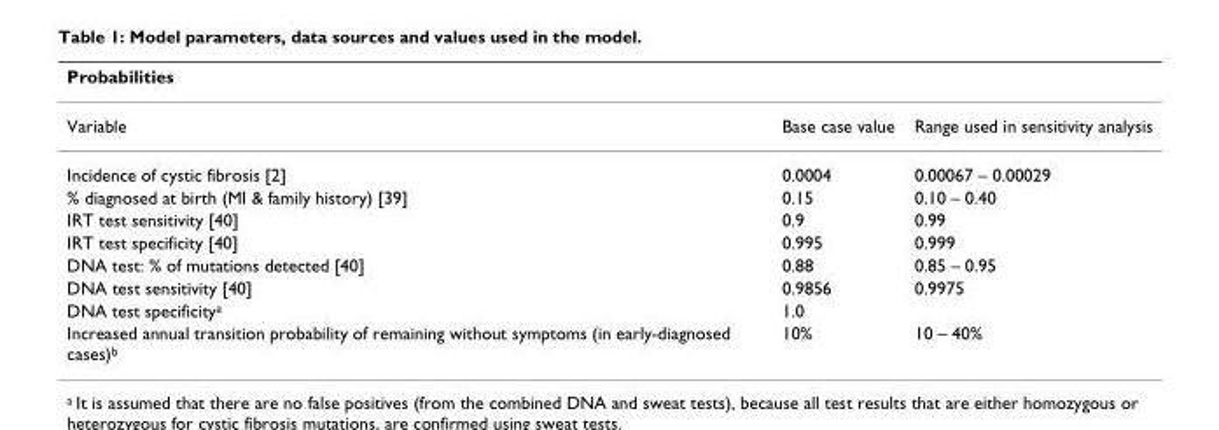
<table><thead><tr><td>Probabilities</td><td></td><td></td></tr></thead><tbody><tr><td>Variable</td><td>Base case value</td><td>Range used in sensitivity analysis</td></tr><tr><td>Incidence of cystic fibrosis [2]</td><td>0.0004</td><td>0.00067 – 0.00029</td></tr><tr><td>% diagnosed at birth (MI &amp; family history) [39]</td><td>0.15</td><td>0.10 – 0.40</td></tr><tr><td>IRT test sensitivity [40]</td><td>0.9</td><td>0.99</td></tr><tr><td>IRT test specificity [40]</td><td>0.995</td><td>0.999</td></tr><tr><td>DNA test: % of mutations detected [40]</td><td>0.88</td><td>0.85 – 0.95</td></tr><tr><td>DNA test sensitivity [40]</td><td>0.9856</td><td>0.9975</td></tr><tr><td>DNA test specificity<sup>a</sup></td><td>1.0</td><td></td></tr><tr><td>Increased annual transition probability of remaining without symptoms (in early-diagnosed cases)<sup>b</sup></td><td>10%</td><td>10 – 40%</td></tr></tbody></table>